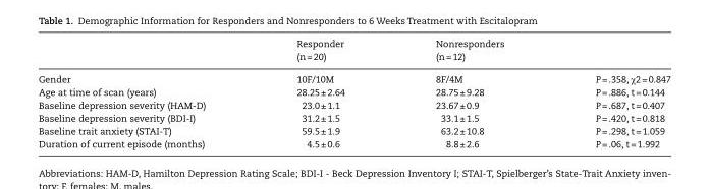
<table><thead><tr><td></td><td>Responder (n = 20)</td><td>Nonresponders (n = 12)</td><td></td></tr></thead><tbody><tr><td>Gender</td><td>10F/10M</td><td>8F/4M</td><td>P = .358, χ2 = 0.847</td></tr><tr><td>Age at time of scan (years)</td><td>28.25 ± 2.64</td><td>28.75 ± 9.28</td><td>P = .886, t = 0.144</td></tr><tr><td>Baseline depression severity (HAM-D)</td><td>23.0 ± 1.1</td><td>23.67 ± 0.9</td><td>P = .687, t = 0.407</td></tr><tr><td>Baseline depression severity (BDI-I)</td><td>31.2 ± 1.5</td><td>33.1 ± 1.5</td><td>P = .420, t = 0.818</td></tr><tr><td>Baseline trait anxiety (STAI-T)</td><td>59.5 ± 1.9</td><td>63.2 ± 10.8</td><td>P = .298, t = 1.059</td></tr><tr><td>Duration of current episode (months)</td><td>4.5 ± 0.6</td><td>8.8 ± 2.6</td><td>P = .06, t = 1.992</td></tr></tbody></table>